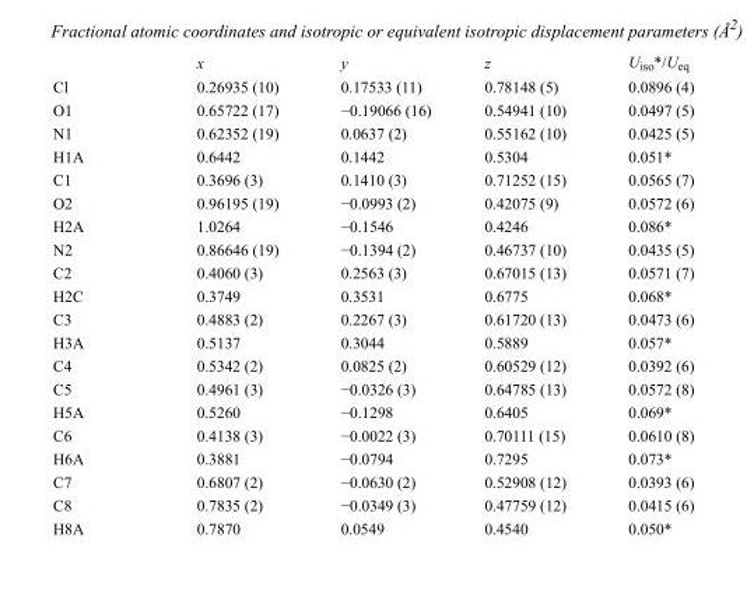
<table><thead><tr><td></td><td>x</td><td>y</td><td>z</td><td>U<sub>iso</sub>*/U<sub>eq</sub></td></tr></thead><tbody><tr><td>Cl</td><td>0.26935 (10)</td><td>0.17533 (11)</td><td>0.78148 (5)</td><td>0.0896 (4)</td></tr><tr><td>O1</td><td>0.65722 (17)</td><td>−0.19066 (16)</td><td>0.54941 (10)</td><td>0.0497 (5)</td></tr><tr><td>N1</td><td>0.62352 (19)</td><td>0.0637 (2)</td><td>0.55162 (10)</td><td>0.0425 (5)</td></tr><tr><td>H1A</td><td>0.6442</td><td>0.1442</td><td>0.5304</td><td>0.051*</td></tr><tr><td>C1</td><td>0.3696 (3)</td><td>0.1410 (3)</td><td>0.71252 (15)</td><td>0.0565 (7)</td></tr><tr><td>O2</td><td>0.96195 (19)</td><td>−0.0993 (2)</td><td>0.42075 (9)</td><td>0.0572 (6)</td></tr><tr><td>H2A</td><td>1.0264</td><td>−0.1546</td><td>0.4246</td><td>0.086*</td></tr><tr><td>N2</td><td>0.86646 (19)</td><td>−0.1394 (2)</td><td>0.46737 (10)</td><td>0.0435 (5)</td></tr><tr><td>C2</td><td>0.4060 (3)</td><td>0.2563 (3)</td><td>0.67015 (13)</td><td>0.0571 (7)</td></tr><tr><td>H2C</td><td>0.3749</td><td>0.3531</td><td>0.6775</td><td>0.068*</td></tr><tr><td>C3</td><td>0.4883 (2)</td><td>0.2267 (3)</td><td>0.61720 (13)</td><td>0.0473 (6)</td></tr><tr><td>H3A</td><td>0.5137</td><td>0.3044</td><td>0.5889</td><td>0.057*</td></tr><tr><td>C4</td><td>0.5342 (2)</td><td>0.0825 (2)</td><td>0.60529 (12)</td><td>0.0392 (6)</td></tr><tr><td>C5</td><td>0.4961 (3)</td><td>−0.0326 (3)</td><td>0.64785 (13)</td><td>0.0572 (8)</td></tr><tr><td>H5A</td><td>0.5260</td><td>−0.1298</td><td>0.6405</td><td>0.069*</td></tr><tr><td>C6</td><td>0.4138 (3)</td><td>−0.0022 (3)</td><td>0.70111 (15)</td><td>0.0610 (8)</td></tr><tr><td>H6A</td><td>0.3881</td><td>−0.0794</td><td>0.7295</td><td>0.073*</td></tr><tr><td>C7</td><td>0.6807 (2)</td><td>−0.0630 (2)</td><td>0.52908 (12)</td><td>0.0393 (6)</td></tr><tr><td>C8</td><td>0.7835 (2)</td><td>−0.0349 (3)</td><td>0.47759 (12)</td><td>0.0415 (6)</td></tr><tr><td>H8A</td><td>0.7870</td><td>0.0549</td><td>0.4540</td><td>0.050*</td></tr></tbody></table>